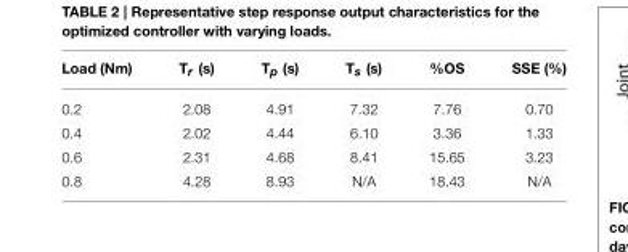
<table><thead><tr><td>Load (Nm)</td><td>T<sub>r</sub> (s)</td><td>T<sub>p</sub> (s)</td><td>T<sub>s</sub> (s)</td><td>%OS</td><td>SSE (%)</td></tr></thead><tbody><tr><td>0.2</td><td>2.08</td><td>4.91</td><td>7.32</td><td>7.76</td><td>0.70</td></tr><tr><td>0.4</td><td>2.02</td><td>4.44</td><td>6.10</td><td>3.36</td><td>1.33</td></tr><tr><td>0.6</td><td>2.31</td><td>4.68</td><td>8.41</td><td>15.65</td><td>3.23</td></tr><tr><td>0.8</td><td>4.28</td><td>8.93</td><td>N/A</td><td>18.43</td><td>N/A</td></tr></tbody></table>